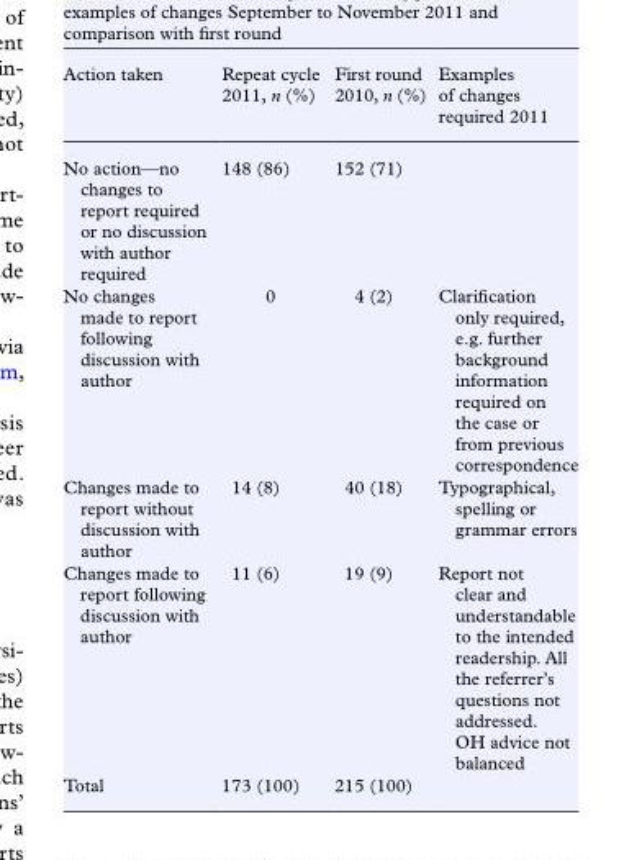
<table><thead><tr><td>Action taken</td><td>Repeat cycle 2011, n (%)</td><td>First round 2010, n (%)</td><td>Examples of changes required 2011</td></tr></thead><tbody><tr><td>No action—no changes to report required or no discussion with author required</td><td>148 (86)</td><td>152 (71)</td><td></td></tr><tr><td>No changes made to report following discussion with author</td><td>0</td><td>4 (2)</td><td>Clarification only required, e.g. further background information required on the case or from previous correspondence</td></tr><tr><td>Changes made to report without discussion with author</td><td>14 (8)</td><td>40 (18)</td><td>Typographical, spelling or grammar errors</td></tr><tr><td>Changes made to report following discussion with author</td><td>11 (6)</td><td>19 (9)</td><td>Report not clear and understandable to the intended readership. All the referrer’s questions not addressed. OH advice not balanced</td></tr><tr><td>Total</td><td>173 (100)</td><td>215 (100)</td><td></td></tr></tbody></table>